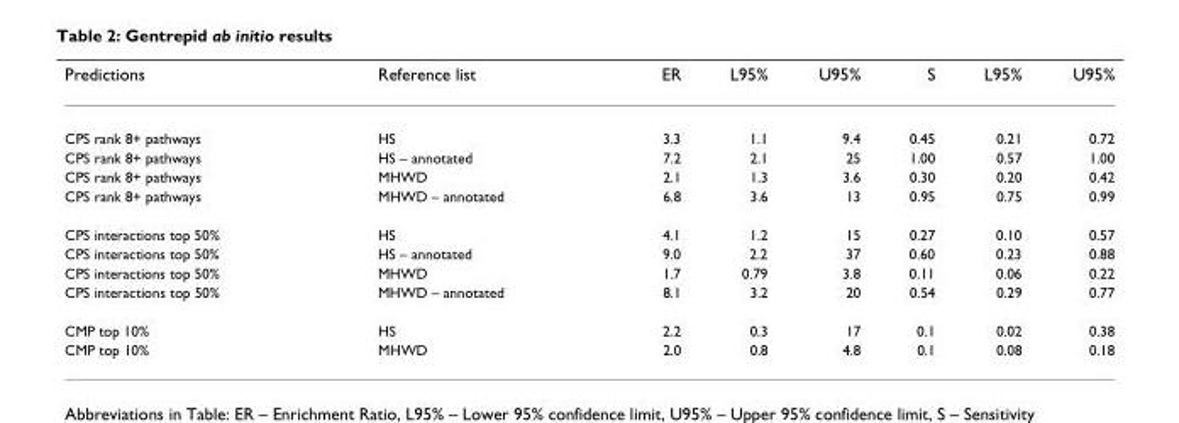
<table><thead><tr><td>Predictions</td><td>Reference list</td><td>ER</td><td>L95%</td><td>U95%</td><td>S</td><td>L95%</td><td>U95%</td></tr></thead><tbody><tr><td>CPS rank 8+ pathways</td><td>HS</td><td>3.3</td><td>1.1</td><td>9.4</td><td>0.45</td><td>0.21</td><td>0.72</td></tr><tr><td>CPS rank 8+ pathways</td><td>HS – annotated</td><td>7.2</td><td>2.1</td><td>25</td><td>1.00</td><td>0.57</td><td>1.00</td></tr><tr><td>CPS rank 8+ pathways</td><td>MHWD</td><td>2.1</td><td>1.3</td><td>3.6</td><td>0.30</td><td>0.20</td><td>0.42</td></tr><tr><td>CPS rank 8+ pathways</td><td>MHWD – annotated</td><td>6.8</td><td>3.6</td><td>13</td><td>0.95</td><td>0.75</td><td>0.99</td></tr><tr><td>CPS interactions top 50%</td><td>HS</td><td>4.1</td><td>1.2</td><td>15</td><td>0.27</td><td>0.10</td><td>0.57</td></tr><tr><td>CPS interactions top 50%</td><td>HS – annotated</td><td>9.0</td><td>2.2</td><td>37</td><td>0.60</td><td>0.23</td><td>0.88</td></tr><tr><td>CPS interactions top 50%</td><td>MHWD</td><td>1.7</td><td>0.79</td><td>3.8</td><td>0.11</td><td>0.06</td><td>0.22</td></tr><tr><td>CPS interactions top 50%</td><td>MHWD – annotated</td><td>8.1</td><td>3.2</td><td>20</td><td>0.54</td><td>0.29</td><td>0.77</td></tr><tr><td>CMP top 10%</td><td>HS</td><td>2.2</td><td>0.3</td><td>17</td><td>0.1</td><td>0.02</td><td>0.38</td></tr><tr><td>CMP top 10%</td><td>MHWD</td><td>2.0</td><td>0.8</td><td>4.8</td><td>0.1</td><td>0.08</td><td>0.18</td></tr></tbody></table>